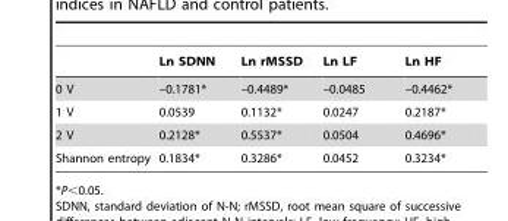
<table><thead><tr><td></td><td>Ln SDNN</td><td>Ln rMSSD</td><td>Ln LF</td><td>Ln HF</td></tr></thead><tbody><tr><td>0 V</td><td>–0.1781*</td><td>–0.4489*</td><td>–0.0485</td><td>–0.4462*</td></tr><tr><td>1 V</td><td>0.0539</td><td>0.1132*</td><td>0.0247</td><td>0.2187*</td></tr><tr><td>2 V</td><td>0.2128*</td><td>0.5537*</td><td>0.0504</td><td>0.4696*</td></tr><tr><td>Shannon entropy</td><td>0.1834*</td><td>0.3286*</td><td>0.0452</td><td>0.3234*</td></tr></tbody></table>